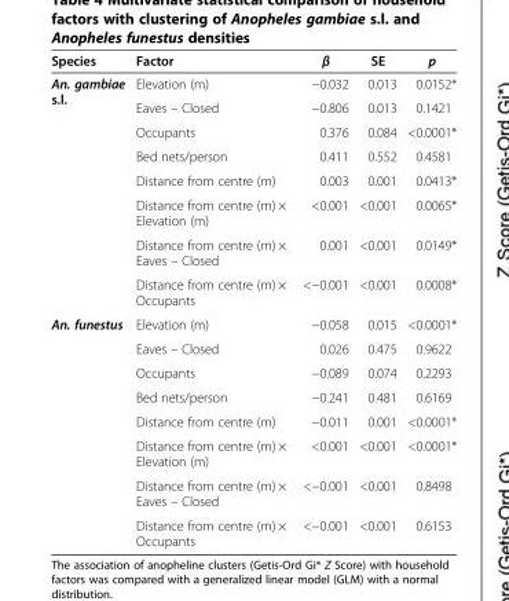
<table><thead><tr><td>Species</td><td>Factor</td><td>β</td><td>SE</td><td>p</td></tr></thead><tbody><tr><td rowspan="8">An. gambiae s.l.</td><td>Elevation (m)</td><td>−0.032</td><td>0.013</td><td>0.0152*</td></tr><tr><td>Eaves – Closed</td><td>−0.806</td><td>0.013</td><td>0.1421</td></tr><tr><td>Occupants</td><td>0.376</td><td>0.084</td><td>&lt;0.0001*</td></tr><tr><td>Bed nets/person</td><td>0.411</td><td>0.552</td><td>0.4581</td></tr><tr><td>Distance from centre (m)</td><td>0.003</td><td>0.001</td><td>0.0413*</td></tr><tr><td>Distance from centre (m) × Elevation (m)</td><td>&lt;0.001</td><td>&lt;0.001</td><td>0.0065*</td></tr><tr><td>Distance from centre (m) × Eaves – Closed</td><td>0.001</td><td>&lt;0.001</td><td>0.0149*</td></tr><tr><td>Distance from centre (m) × Occupants</td><td>&lt;−0.001</td><td>&lt;0.001</td><td>0.0008*</td></tr><tr><td rowspan="8">An. funestus</td><td>Elevation (m)</td><td>−0.058</td><td>0.015</td><td>&lt;0.0001*</td></tr><tr><td>Eaves – Closed</td><td>0.026</td><td>0.475</td><td>0.9622</td></tr><tr><td>Occupants</td><td>−0.089</td><td>0.074</td><td>0.2293</td></tr><tr><td>Bed nets/person</td><td>−0.241</td><td>0.481</td><td>0.6169</td></tr><tr><td>Distance from centre (m)</td><td>−0.011</td><td>0.001</td><td>&lt;0.0001*</td></tr><tr><td>Distance from centre (m) × Elevation (m)</td><td>&lt;0.001</td><td>&lt;0.001</td><td>&lt;0.0001*</td></tr><tr><td>Distance from centre (m) × Eaves – Closed</td><td>&lt;−0.001</td><td>&lt;0.001</td><td>0.8498</td></tr><tr><td>Distance from centre (m) × Occupants</td><td>&lt;−0.001</td><td>&lt;0.001</td><td>0.6153</td></tr></tbody></table>